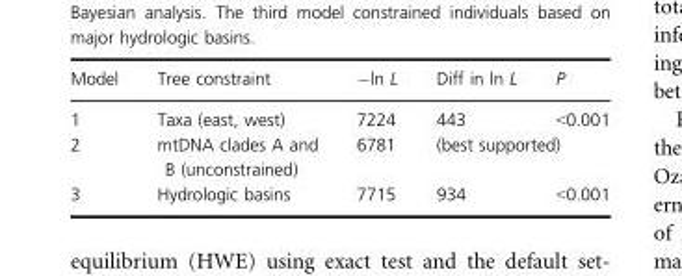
<table><thead><tr><td>Model</td><td>Tree constraint</td><td>−ln L</td><td>Diff in ln L</td><td>P</td></tr></thead><tbody><tr><td>1</td><td>Taxa (east, west)</td><td>7224</td><td>443</td><td>&lt;0.001</td></tr><tr><td>2</td><td>mtDNA clades A and B (unconstrained)</td><td>6781</td><td colspan="2">(best supported)</td></tr><tr><td>3</td><td>Hydrologic basins</td><td>7715</td><td>934</td><td>&lt;0.001</td></tr></tbody></table>